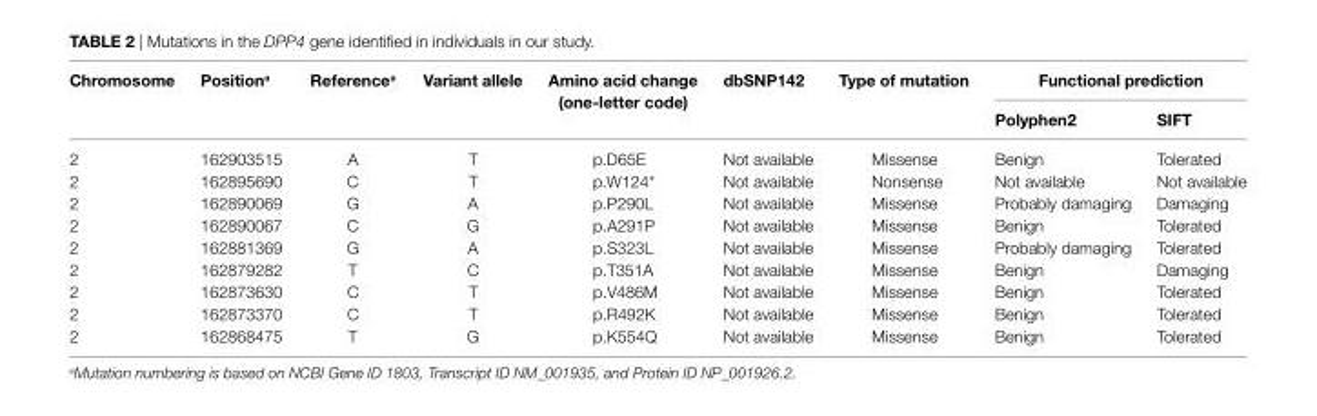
<table><thead><tr><td rowspan="2">chromosome</td><td rowspan="2">Position<sup>a</sup></td><td rowspan="2">reference<sup>a</sup></td><td rowspan="2">Variant allele</td><td rowspan="2">amino acid change (one-letter code)</td><td rowspan="2">dbsnP142</td><td rowspan="2">Type of mutation</td><td colspan="2">Functional prediction</td></tr><tr><td>Polyphen2</td><td>siFT</td></tr></thead><tbody><tr><td>2</td><td>162903515</td><td>A</td><td>T</td><td>p.D65E</td><td>Not available</td><td>Missense</td><td>Benign</td><td>Tolerated</td></tr><tr><td>2</td><td>162895690</td><td>C</td><td>T</td><td>p.W124*</td><td>Not available</td><td>Nonsense</td><td>Not available</td><td>Not available</td></tr><tr><td>2</td><td>162890069</td><td>G</td><td>A</td><td>p.P290L</td><td>Not available</td><td>Missense</td><td>Probably damaging</td><td>Damaging</td></tr><tr><td>2</td><td>162890067</td><td>C</td><td>G</td><td>p.A291P</td><td>Not available</td><td>Missense</td><td>Benign</td><td>Tolerated</td></tr><tr><td>2</td><td>162881369</td><td>G</td><td>A</td><td>p.S323L</td><td>Not available</td><td>Missense</td><td>Probably damaging</td><td>Tolerated</td></tr><tr><td>2</td><td>162879282</td><td>T</td><td>C</td><td>p.T351A</td><td>Not available</td><td>Missense</td><td>Benign</td><td>Damaging</td></tr><tr><td>2</td><td>162873630</td><td>C</td><td>T</td><td>p.V486M</td><td>Not available</td><td>Missense</td><td>Benign</td><td>Tolerated</td></tr><tr><td>2</td><td>162873370</td><td>C</td><td>T</td><td>p.R492K</td><td>Not available</td><td>Missense</td><td>Benign</td><td>Tolerated</td></tr><tr><td>2</td><td>162868475</td><td>T</td><td>G</td><td>p.K554Q</td><td>Not available</td><td>Missense</td><td>Benign</td><td>Tolerated</td></tr></tbody></table>